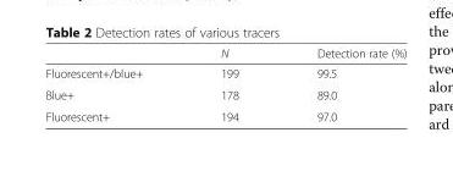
<table><thead><tr><td></td><td>N</td><td>Detection rate (%)</td></tr></thead><tbody><tr><td>Fluorescent+/blue+</td><td>199</td><td>99.5</td></tr><tr><td>Blue+</td><td>178</td><td>89.0</td></tr><tr><td>Fluorescent+</td><td>194</td><td>97.0</td></tr></tbody></table>